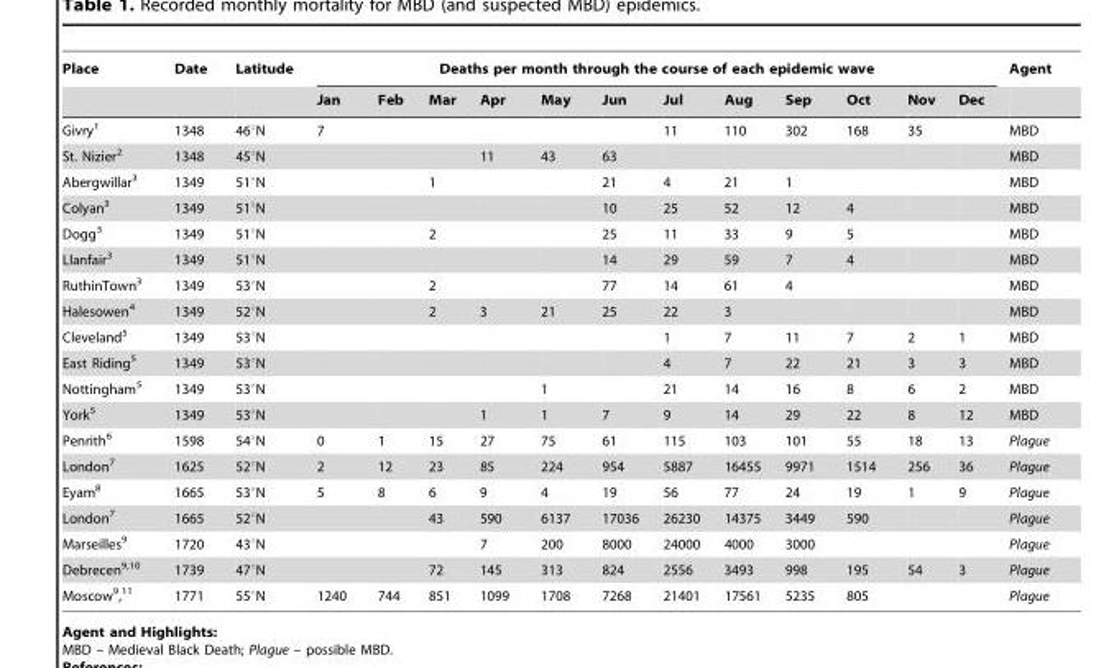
<table><thead><tr><td rowspan="2">Place</td><td rowspan="2">Date</td><td rowspan="2">Latitude</td><td colspan="12">Deaths per month through the course of each epidemic wave</td><td rowspan="2">Agent</td></tr><tr><td>Jan</td><td>Feb</td><td>Mar</td><td>Apr</td><td>May</td><td>Jun</td><td>Jul</td><td>Aug</td><td>Sep</td><td>Oct</td><td>Nov</td><td>Dec</td></tr></thead><tbody><tr><td>Givry<sup>1</sup></td><td>1348</td><td>46°N</td><td>7</td><td></td><td></td><td></td><td></td><td></td><td>11</td><td>110</td><td>302</td><td>168</td><td>35</td><td></td><td>MBD</td></tr><tr><td>St. Nizier<sup>2</sup></td><td>1348</td><td>45°N</td><td></td><td></td><td></td><td>11</td><td>43</td><td>63</td><td></td><td></td><td></td><td></td><td></td><td></td><td>MBD</td></tr><tr><td>Abergwillar<sup>3</sup></td><td>1349</td><td>51°N</td><td></td><td></td><td>1</td><td></td><td></td><td>21</td><td>4</td><td>21</td><td>1</td><td></td><td></td><td></td><td>MBD</td></tr><tr><td>Colyan<sup>3</sup></td><td>1349</td><td>51°N</td><td></td><td></td><td></td><td></td><td></td><td>10</td><td>25</td><td>52</td><td>12</td><td>4</td><td></td><td></td><td>MBD</td></tr><tr><td>Dogg<sup>3</sup></td><td>1349</td><td>51°N</td><td></td><td></td><td>2</td><td></td><td></td><td>25</td><td>11</td><td>33</td><td>9</td><td>5</td><td></td><td></td><td>MBD</td></tr><tr><td>Llanfair<sup>3</sup></td><td>1349</td><td>51°N</td><td></td><td></td><td></td><td></td><td></td><td>14</td><td>29</td><td>59</td><td>7</td><td>4</td><td></td><td></td><td>MBD</td></tr><tr><td>RuthinTown<sup>3</sup></td><td>1349</td><td>53°N</td><td></td><td></td><td>2</td><td></td><td></td><td>77</td><td>14</td><td>61</td><td>4</td><td></td><td></td><td></td><td>MBD</td></tr><tr><td>Halesowen<sup>4</sup></td><td>1349</td><td>52°N</td><td></td><td></td><td>2</td><td>3</td><td>21</td><td>25</td><td>22</td><td>3</td><td></td><td></td><td></td><td></td><td>MBD</td></tr><tr><td>Cleveland<sup>5</sup></td><td>1349</td><td>53°N</td><td></td><td></td><td></td><td></td><td></td><td></td><td>1</td><td>7</td><td>11</td><td>7</td><td>2</td><td>1</td><td>MBD</td></tr><tr><td>East Riding<sup>5</sup></td><td>1349</td><td>53°N</td><td></td><td></td><td></td><td></td><td></td><td></td><td>4</td><td>7</td><td>22</td><td>21</td><td>3</td><td>3</td><td>MBD</td></tr><tr><td>Nottingham<sup>5</sup></td><td>1349</td><td>53°N</td><td></td><td></td><td></td><td></td><td>1</td><td></td><td>21</td><td>14</td><td>16</td><td>8</td><td>6</td><td>2</td><td>MBD</td></tr><tr><td>York<sup>5</sup></td><td>1349</td><td>53°N</td><td></td><td></td><td></td><td>1</td><td>1</td><td>7</td><td>9</td><td>14</td><td>29</td><td>22</td><td>8</td><td>12</td><td>MBD</td></tr><tr><td>Penrith<sup>6</sup></td><td>1598</td><td>54°N</td><td>0</td><td>1</td><td>15</td><td>27</td><td>75</td><td>61</td><td>115</td><td>103</td><td>101</td><td>55</td><td>18</td><td>13</td><td>Plague</td></tr><tr><td>London<sup>7</sup></td><td>1625</td><td>52°N</td><td>2</td><td>12</td><td>23</td><td>85</td><td>224</td><td>954</td><td>5887</td><td>16455</td><td>9971</td><td>1514</td><td>256</td><td>36</td><td>Plague</td></tr><tr><td>Eyam<sup>8</sup></td><td>1665</td><td>53°N</td><td>5</td><td>8</td><td>6</td><td>9</td><td>4</td><td>19</td><td>56</td><td>77</td><td>24</td><td>19</td><td>1</td><td>9</td><td>Plague</td></tr><tr><td>London<sup>7</sup></td><td>1665</td><td>52°N</td><td></td><td></td><td>43</td><td>590</td><td>6137</td><td>17036</td><td>26230</td><td>14375</td><td>3449</td><td>590</td><td></td><td></td><td>Plague</td></tr><tr><td>Marseilles<sup>9</sup></td><td>1720</td><td>43°N</td><td></td><td></td><td></td><td>7</td><td>200</td><td>8000</td><td>24000</td><td>4000</td><td>3000</td><td></td><td></td><td></td><td>Plague</td></tr><tr><td>Debrecen<sup>9,10</sup></td><td>1739</td><td>47°N</td><td></td><td></td><td>72</td><td>145</td><td>313</td><td>824</td><td>2556</td><td>3493</td><td>998</td><td>195</td><td>54</td><td>3</td><td>Plague</td></tr><tr><td>Moscow<sup>9</sup>,<sup>11</sup></td><td>1771</td><td>55°N</td><td>1240</td><td>744</td><td>851</td><td>1099</td><td>1708</td><td>7268</td><td>21401</td><td>17561</td><td>5235</td><td>805</td><td></td><td></td><td>Plague</td></tr></tbody></table>